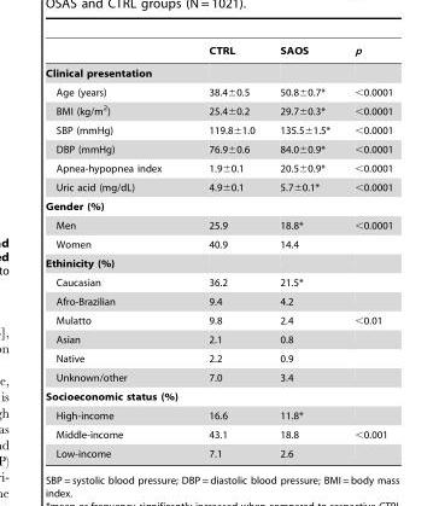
<table><thead><tr><td></td><td>CTRL</td><td>SAOS</td><td>p</td></tr></thead><tbody><tr><td colspan="4">Clinical presentation</td></tr><tr><td>Age (years)</td><td>38.4±0.5</td><td>50.8±0.7*</td><td>&lt;0.0001</td></tr><tr><td>BMI (kg/m<sup>2</sup>)</td><td>25.4±0.2</td><td>29.7±0.3*</td><td>&lt;0.0001</td></tr><tr><td>SBP (mmHg)</td><td>119.8±1.0</td><td>135.5±1.5*</td><td>&lt;0.0001</td></tr><tr><td>DBP (mmHg)</td><td>76.9±0.6</td><td>84.0±0.9*</td><td>&lt;0.0001</td></tr><tr><td>Apnea-hypopnea index</td><td>1.9±0.1</td><td>20.5±0.9*</td><td>&lt;0.0001</td></tr><tr><td>Uric acid (mg/dL)</td><td>4.9±0.1</td><td>5.7±0.1*</td><td>&lt;0.0001</td></tr><tr><td colspan="4">Gender (%)</td></tr><tr><td>Men</td><td>25.9</td><td>18.8*</td><td>&lt;0.0001</td></tr><tr><td>Women</td><td>40.9</td><td>14.4</td><td></td></tr><tr><td colspan="4">Ethinicity (%)</td></tr><tr><td>Caucasian</td><td>36.2</td><td>21.5*</td><td></td></tr><tr><td>Afro-Brazilian</td><td>9.4</td><td>4.2</td><td></td></tr><tr><td>Mulatto</td><td>9.8</td><td>2.4</td><td>&lt;0.01</td></tr><tr><td>Asian</td><td>2.1</td><td>0.8</td><td></td></tr><tr><td>Native</td><td>2.2</td><td>0.9</td><td></td></tr><tr><td>Unknown/other</td><td>7.0</td><td>3.4</td><td></td></tr><tr><td colspan="4">Socioeconomic status (%)</td></tr><tr><td>High-income</td><td>16.6</td><td>11.8*</td><td></td></tr><tr><td>Middle-income</td><td>43.1</td><td>18.8</td><td>&lt;0.001</td></tr><tr><td>Low-income</td><td>7.1</td><td>2.6</td><td></td></tr></tbody></table>